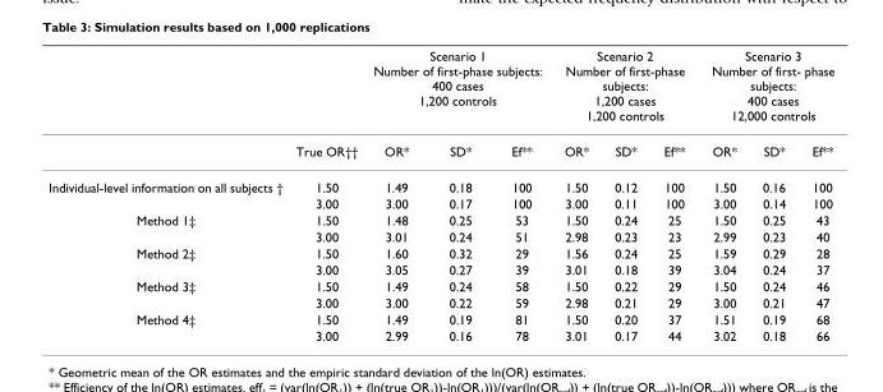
<table><thead><tr><td rowspan="2"></td><td rowspan="2">True OR††</td><td colspan="3">Scenario 1 Number of first-phase subjects: 400 cases 1,200 controls</td><td colspan="3">Scenario 2 Number of first-phase subjects: 1,200 cases 1,200 controls</td><td colspan="3">Scenario 3 Number of first- phase subjects: 400 cases 12,000 controls</td></tr><tr><td>OR*</td><td>SD*</td><td>Ef**</td><td>OR*</td><td>SD*</td><td>Ef**</td><td>OR*</td><td>SD*</td><td>Ef**</td></tr></thead><tbody><tr><td rowspan="2">Individual-level information on all subjects †</td><td>1.50</td><td>1.49</td><td>0.18</td><td>100</td><td>1.50</td><td>0.12</td><td>100</td><td>1.50</td><td>0.16</td><td>100</td></tr><tr><td>3.00</td><td>3.00</td><td>0.17</td><td>100</td><td>3.00</td><td>0.11</td><td>100</td><td>3.00</td><td>0.14</td><td>100</td></tr><tr><td rowspan="2">Method 1‡</td><td>1.50</td><td>1.48</td><td>0.25</td><td>53</td><td>1.50</td><td>0.24</td><td>25</td><td>1.50</td><td>0.25</td><td>43</td></tr><tr><td>3.00</td><td>3.01</td><td>0.24</td><td>51</td><td>2.98</td><td>0.23</td><td>23</td><td>2.99</td><td>0.23</td><td>40</td></tr><tr><td rowspan="2">Method 2‡</td><td>1.50</td><td>1.60</td><td>0.32</td><td>29</td><td>1.56</td><td>0.24</td><td>25</td><td>1.59</td><td>0.29</td><td>28</td></tr><tr><td>3.00</td><td>3.05</td><td>0.27</td><td>39</td><td>3.01</td><td>0.18</td><td>39</td><td>3.04</td><td>0.24</td><td>37</td></tr><tr><td rowspan="2">Method 3‡</td><td>1.50</td><td>1.49</td><td>0.24</td><td>58</td><td>1.50</td><td>0.22</td><td>29</td><td>1.50</td><td>0.24</td><td>46</td></tr><tr><td>3.00</td><td>3.00</td><td>0.22</td><td>59</td><td>2.98</td><td>0.21</td><td>29</td><td>3.00</td><td>0.21</td><td>47</td></tr><tr><td rowspan="2">Method 4‡</td><td>1.50</td><td>1.49</td><td>0.19</td><td>81</td><td>1.50</td><td>0.20</td><td>37</td><td>1.51</td><td>0.19</td><td>68</td></tr><tr><td>3.00</td><td>2.99</td><td>0.16</td><td>78</td><td>3.01</td><td>0.17</td><td>44</td><td>3.02</td><td>0.18</td><td>66</td></tr></tbody></table>